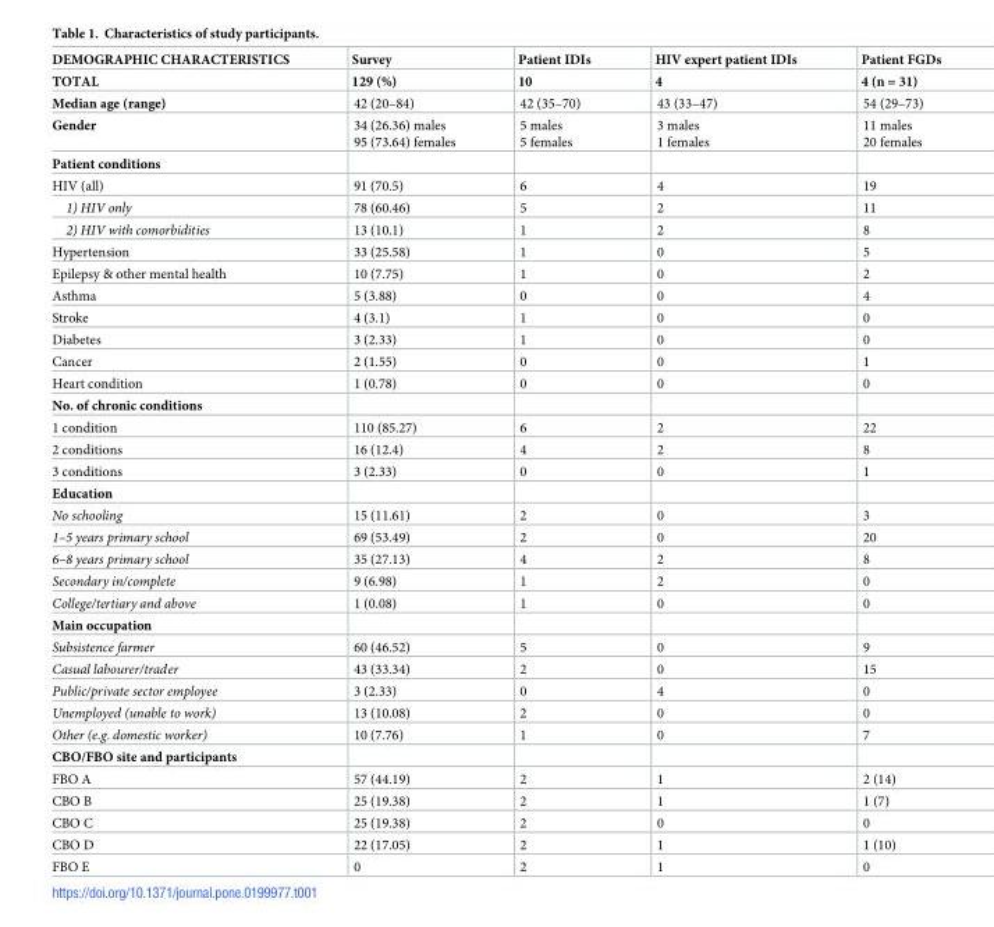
<table><thead><tr><td rowspan="2">DEMOGRAPHIC CHARACTERISTICS TOTAL</td><td rowspan="2">Survey 129 (%)</td><td rowspan="2">Patient IDIs 10</td><td rowspan="2">HIV expert patient IDIs 4</td><td rowspan="2">Patient FGDs 4 (n = 31)</td></tr><tr></tr></thead><tbody><tr><td>Median age (range)</td><td>42 (20–84)</td><td>42 (35–70)</td><td>43 (33–47)</td><td>54 (29–73)</td></tr><tr><td>Gender</td><td>34 (26.36) males 95 (73.64) females</td><td>5 males 5 females</td><td>3 males 1 females</td><td>11 males 20 females</td></tr><tr><td colspan="5">Patient conditions</td></tr><tr><td>HIV (all)</td><td>91 (70.5)</td><td>6</td><td>4</td><td>19</td></tr><tr><td>1) HIV only</td><td>78 (60.46)</td><td>5</td><td>2</td><td>11</td></tr><tr><td>2) HIV with comorbidities</td><td>13 (10.1)</td><td>1</td><td>2</td><td>8</td></tr><tr><td>Hypertension</td><td>33 (25.58)</td><td>1</td><td>0</td><td>5</td></tr><tr><td>Epilepsy &amp; other mental health</td><td>10 (7.75)</td><td>1</td><td>0</td><td>2</td></tr><tr><td>Asthma</td><td>5 (3.88)</td><td>0</td><td>0</td><td>4</td></tr><tr><td>Stroke</td><td>4 (3.1)</td><td>1</td><td>0</td><td>0</td></tr><tr><td>Diabetes</td><td>3 (2.33)</td><td>1</td><td>0</td><td>0</td></tr><tr><td>Cancer</td><td>2 (1.55)</td><td>0</td><td>0</td><td>1</td></tr><tr><td>Heart condition</td><td>1 (0.78)</td><td>0</td><td>0</td><td>0</td></tr><tr><td colspan="5">No. of chronic conditions</td></tr><tr><td>1 condition</td><td>110 (85.27)</td><td>6</td><td>2</td><td>22</td></tr><tr><td>2 conditions</td><td>16 (12.4)</td><td>4</td><td>2</td><td>8</td></tr><tr><td>3 conditions</td><td>3 (2.33)</td><td>0</td><td>0</td><td>1</td></tr><tr><td colspan="5">Education</td></tr><tr><td>No schooling</td><td>15 (11.61)</td><td>2</td><td>0</td><td>3</td></tr><tr><td>1–5 years primary school</td><td>69 (53.49)</td><td>2</td><td>0</td><td>20</td></tr><tr><td>6–8 years primary school</td><td>35 (27.13)</td><td>4</td><td>2</td><td>8</td></tr><tr><td>Secondary in/complete</td><td>9 (6.98)</td><td>1</td><td>2</td><td>0</td></tr><tr><td>College/tertiary and above</td><td>1 (0.08)</td><td>1</td><td>0</td><td>0</td></tr><tr><td colspan="5">Main occupation</td></tr><tr><td>Subsistence farmer</td><td>60 (46.52)</td><td>5</td><td>0</td><td>9</td></tr><tr><td>Casual labourer/trader</td><td>43 (33.34)</td><td>2</td><td>0</td><td>15</td></tr><tr><td>Public/private sector employee</td><td>3 (2.33)</td><td>0</td><td>4</td><td>0</td></tr><tr><td>Unemployed (unable to work)</td><td>13 (10.08)</td><td>2</td><td>0</td><td>0</td></tr><tr><td>Other (e.g. domestic worker)</td><td>10 (7.76)</td><td>1</td><td>0</td><td>7</td></tr><tr><td colspan="5">CBO/FBO site and participants</td></tr><tr><td>FBO A</td><td>57 (44.19)</td><td>2</td><td>1</td><td>2 (14)</td></tr><tr><td>CBO B</td><td>25 (19.38)</td><td>2</td><td>1</td><td>1 (7)</td></tr><tr><td>CBO C</td><td>25 (19.38)</td><td>2</td><td>0</td><td>0</td></tr><tr><td>CBO D</td><td>22 (17.05)</td><td>2</td><td>1</td><td>1 (10)</td></tr><tr><td>FBO E</td><td>0</td><td>2</td><td>1</td><td>0</td></tr></tbody></table>